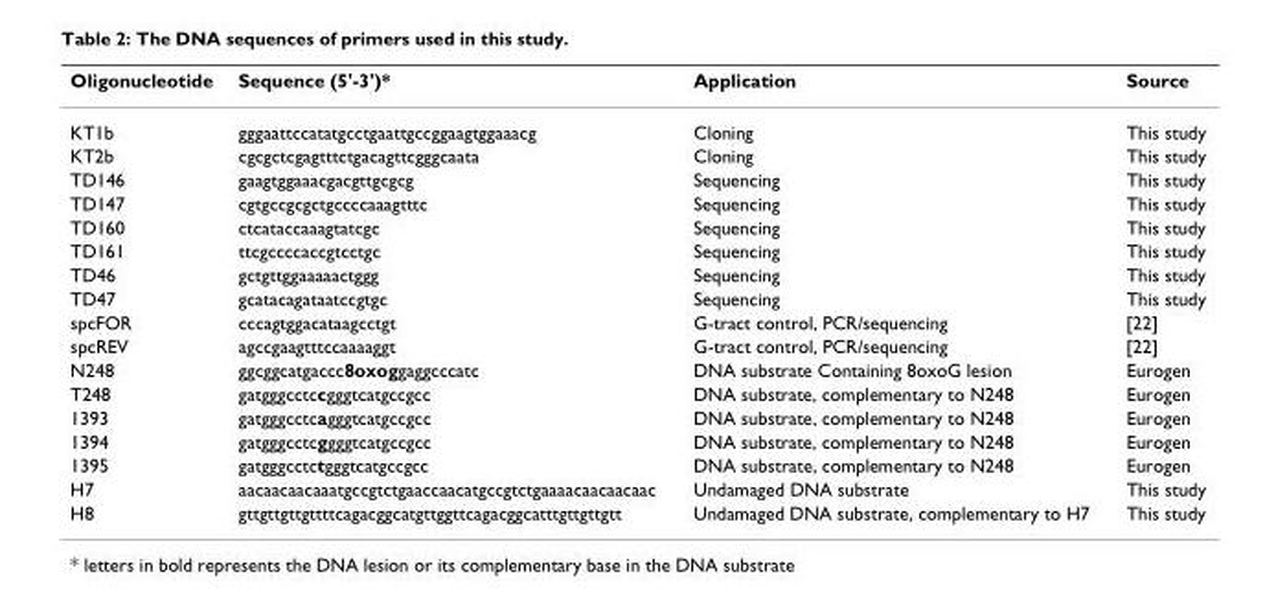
<table><thead><tr><td>Oligonucleotide</td><td>Sequence (5&#x27;-3&#x27;)*</td><td>Application</td><td>Source</td></tr></thead><tbody><tr><td>KT1b</td><td>gggaattccatatgcctgaattgccggaagtggaaacg</td><td>Cloning</td><td>This study</td></tr><tr><td>KT2b</td><td>cgcgctcgagtttctgacagttcgggcaata</td><td>Cloning</td><td>This study</td></tr><tr><td>TD146</td><td>gaagtggaaacgacgttgcgcg</td><td>Sequencing</td><td>This study</td></tr><tr><td>TD147</td><td>cgtgccgcgctgccccaaagtttc</td><td>Sequencing</td><td>This study</td></tr><tr><td>TD160</td><td>ctcataccaaagtatcgc</td><td>Sequencing</td><td>This study</td></tr><tr><td>TD161</td><td>ttcgccccaccgtcctgc</td><td>Sequencing</td><td>This study</td></tr><tr><td>TD46</td><td>gctgttggaaaaactggg</td><td>Sequencing</td><td>This study</td></tr><tr><td>TD47</td><td>gcatacagataatccgtgc</td><td>Sequencing</td><td>This study</td></tr><tr><td>spcFOR</td><td>cccagtggacataagcctgt</td><td>G-tract control, PCR/sequencing</td><td>[22]</td></tr><tr><td>spcREV</td><td>agccgaagtttccaaaaggt</td><td>G-tract control, PCR/sequencing</td><td>[22]</td></tr><tr><td>N248</td><td>ggcggcatgaccc8oxoggaggcccatc</td><td>DNA substrate Containing 8oxoG lesion</td><td>Eurogen</td></tr><tr><td>T248</td><td>gatgggcctccgggtcatgccgcc</td><td>DNA substrate, complementary to N248</td><td>Eurogen</td></tr><tr><td>1393</td><td>gatgggcctcagggtcatgccgcc</td><td>DNA substrate, complementary to N248</td><td>Eurogen</td></tr><tr><td>1394</td><td>gatgggcctcggggtcatgccgcc</td><td>DNA substrate, complementary to N248</td><td>Eurogen</td></tr><tr><td>1395</td><td>gatgggcctctgggtcatgccgcc</td><td>DNA substrate, complementary to N248</td><td>Eurogen</td></tr><tr><td>H7</td><td>aacaacaacaaatgccgtctgaaccaacatgccgtctgaaaacaacaacaac</td><td>Undamaged DNA substrate</td><td>This study</td></tr><tr><td>H8</td><td>gttgttgttgttttcagacggcatgttggttcagacggcatttgttgttgtt</td><td>Undamaged DNA substrate, complementary to H7</td><td>This study</td></tr></tbody></table>